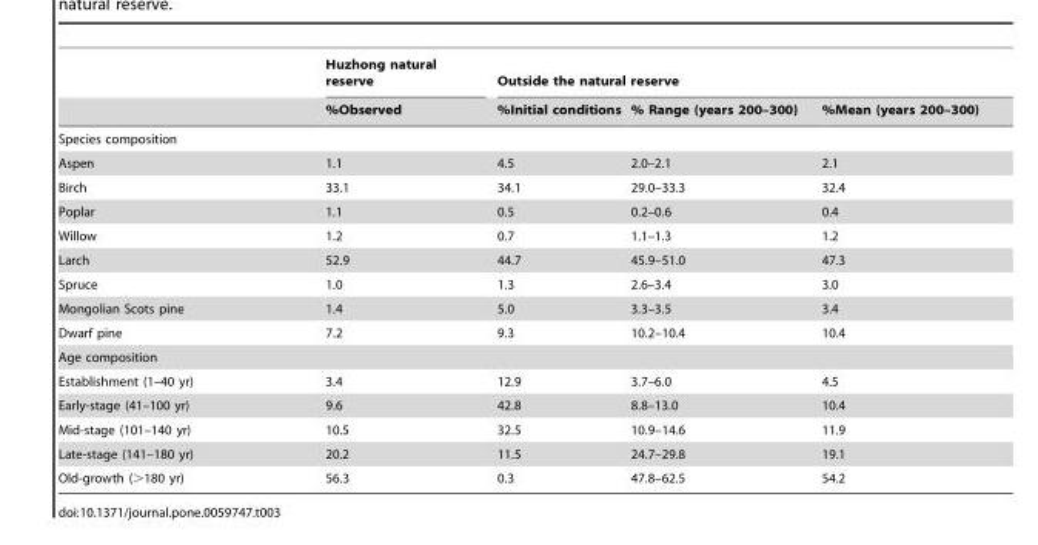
<table><thead><tr><td rowspan="2"></td><td rowspan="2">Huzhong natural reserve %Observed</td><td colspan="3">Outside the natural reserve</td></tr><tr><td>%Initial conditions</td><td>% Range (years 200–300)</td><td>%Mean (years 200–300)</td></tr></thead><tbody><tr><td colspan="5">Species composition</td></tr><tr><td>Aspen</td><td>1.1</td><td>4.5</td><td>2.0–2.1</td><td>2.1</td></tr><tr><td>Birch</td><td>33.1</td><td>34.1</td><td>29.0–33.3</td><td>32.4</td></tr><tr><td>Poplar</td><td>1.1</td><td>0.5</td><td>0.2–0.6</td><td>0.4</td></tr><tr><td>Willow</td><td>1.2</td><td>0.7</td><td>1.1–1.3</td><td>1.2</td></tr><tr><td>Larch</td><td>52.9</td><td>44.7</td><td>45.9–51.0</td><td>47.3</td></tr><tr><td>Spruce</td><td>1.0</td><td>1.3</td><td>2.6–3.4</td><td>3.0</td></tr><tr><td>Mongolian Scots pine</td><td>1.4</td><td>5.0</td><td>3.3–3.5</td><td>3.4</td></tr><tr><td>Dwarf pine</td><td>7.2</td><td>9.3</td><td>10.2–10.4</td><td>10.4</td></tr><tr><td colspan="5">Age composition</td></tr><tr><td>Establishment (1–40 yr)</td><td>3.4</td><td>12.9</td><td>3.7–6.0</td><td>4.5</td></tr><tr><td>Early-stage (41–100 yr)</td><td>9.6</td><td>42.8</td><td>8.8–13.0</td><td>10.4</td></tr><tr><td>Mid-stage (101–140 yr)</td><td>10.5</td><td>32.5</td><td>10.9–14.6</td><td>11.9</td></tr><tr><td>Late-stage (141–180 yr)</td><td>20.2</td><td>11.5</td><td>24.7–29.8</td><td>19.1</td></tr><tr><td>Old-growth (&gt;180 yr)</td><td>56.3</td><td>0.3</td><td>47.8–62.5</td><td>54.2</td></tr></tbody></table>